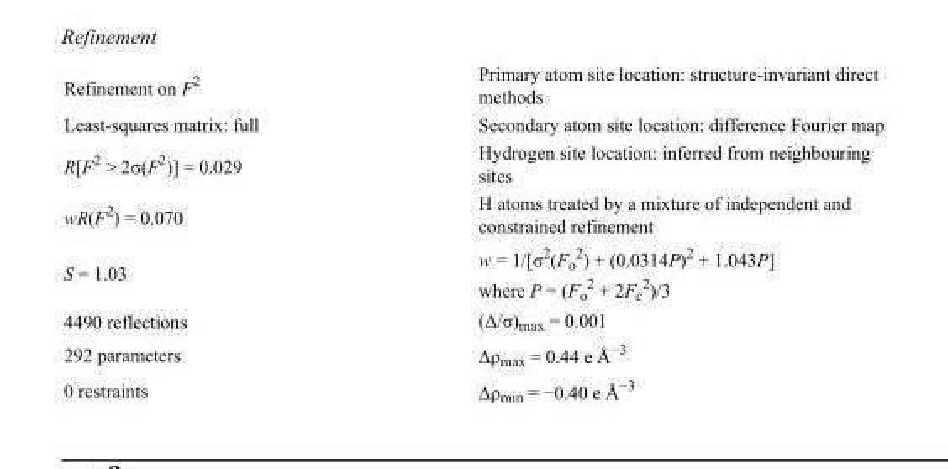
<table><tbody><tr><td>Refinement on F<sup>2</sup></td><td>Primary atom site location: structure-invariant direct methods</td></tr><tr><td>Least-squares matrix: full</td><td>Secondary atom site location: difference Fourier map</td></tr><tr><td>R[F<sup>2</sup> &gt; 2σ(F<sup>2</sup>)] = 0.029</td><td>Hydrogen site location: inferred from neighbouring sites</td></tr><tr><td>wR(F<sup>2</sup>) = 0.070</td><td>H atoms treated by a mixture of independent and constrained refinement</td></tr><tr><td>S = 1.03</td><td>w = 1/[σ<sup>2</sup>(F<sub>o</sub> <sup>2</sup>) + (0.0314P)<sup>2</sup> + 1.043P] where P = (F<sub>o</sub> <sup>2</sup> + 2F<sub>c</sub> <sup>2</sup>)/3</td></tr><tr><td>4490 reflections</td><td>(Δ/σ)<sub>max</sub> = 0.001</td></tr><tr><td>292 parameters</td><td>Δρ<sub>max</sub> = 0.44 e Å<sup>−3</sup></td></tr><tr><td>0 restraints</td><td>Δρ<sub>min</sub> = −0.40 e Å<sup>−3</sup></td></tr></tbody></table>